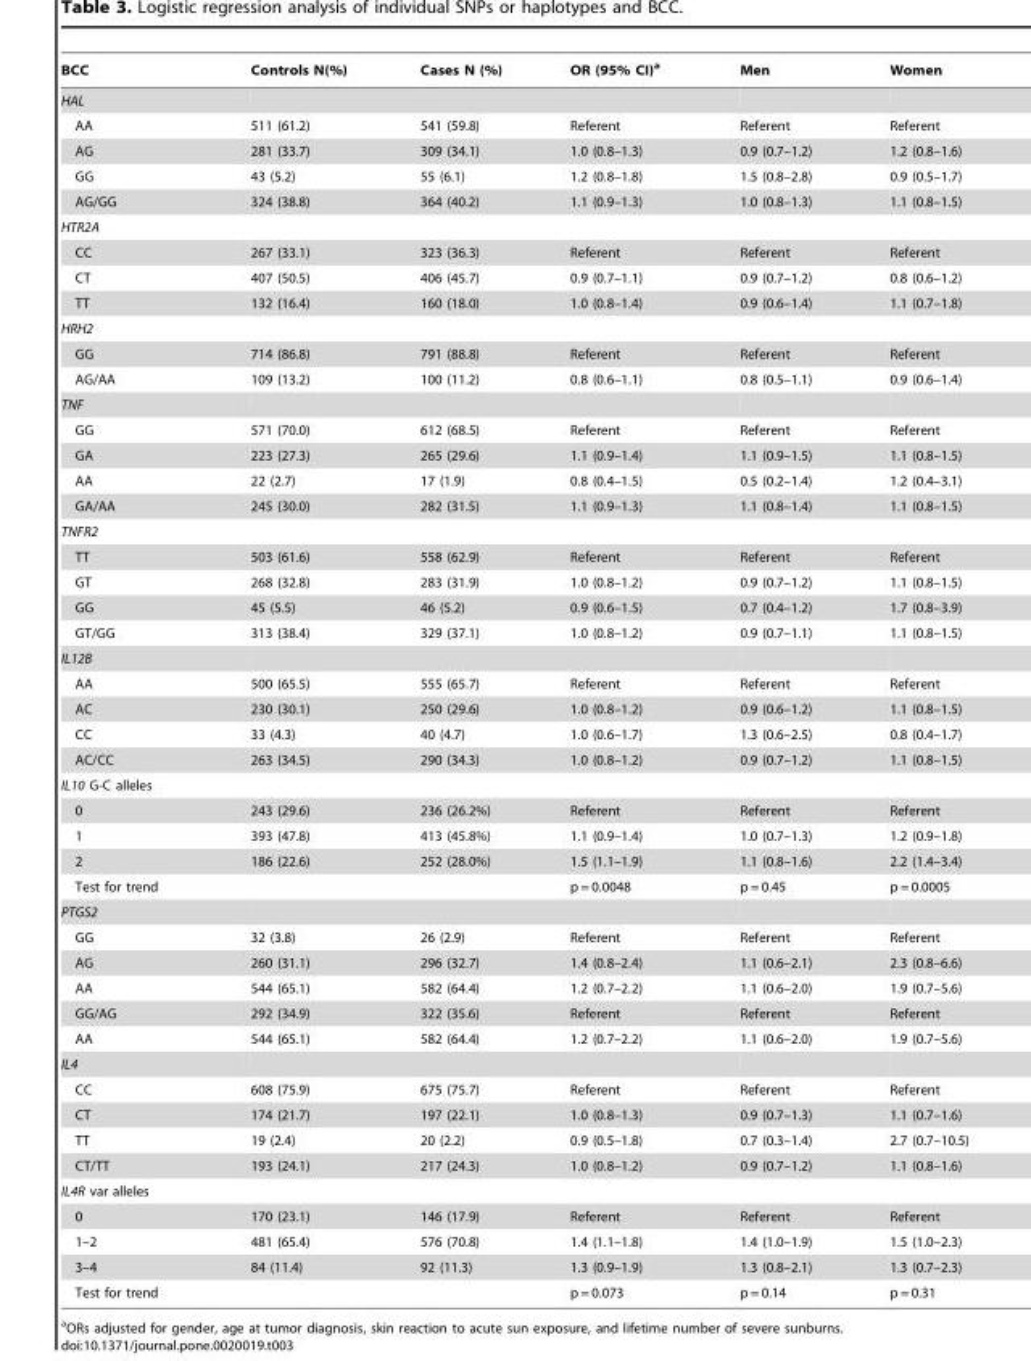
<table><thead><tr><td>BCC</td><td>Controls N(%)</td><td>Cases N (%)</td><td>OR (95% CI)<sup>a</sup></td><td>Men</td><td>Women</td></tr></thead><tbody><tr><td colspan="6">HAL</td></tr><tr><td>AA</td><td>511 (61.2)</td><td>541 (59.8)</td><td>Referent</td><td>Referent</td><td>Referent</td></tr><tr><td>AG</td><td>281 (33.7)</td><td>309 (34.1)</td><td>1.0 (0.8–1.3)</td><td>0.9 (0.7–1.2)</td><td>1.2 (0.8–1.6)</td></tr><tr><td>GG</td><td>43 (5.2)</td><td>55 (6.1)</td><td>1.2 (0.8–1.8)</td><td>1.5 (0.8–2.8)</td><td>0.9 (0.5–1.7)</td></tr><tr><td>AG/GG</td><td>324 (38.8)</td><td>364 (40.2)</td><td>1.1 (0.9–1.3)</td><td>1.0 (0.8–1.3)</td><td>1.1 (0.8–1.5)</td></tr><tr><td colspan="6">HTR2A</td></tr><tr><td>CC</td><td>267 (33.1)</td><td>323 (36.3)</td><td>Referent</td><td>Referent</td><td>Referent</td></tr><tr><td>CT</td><td>407 (50.5)</td><td>406 (45.7)</td><td>0.9 (0.7–1.1)</td><td>0.9 (0.7–1.2)</td><td>0.8 (0.6–1.2)</td></tr><tr><td>TT</td><td>132 (16.4)</td><td>160 (18.0)</td><td>1.0 (0.8–1.4)</td><td>0.9 (0.6–1.4)</td><td>1.1 (0.7–1.8)</td></tr><tr><td colspan="6">HRH2</td></tr><tr><td>GG</td><td>714 (86.8)</td><td>791 (88.8)</td><td>Referent</td><td>Referent</td><td>Referent</td></tr><tr><td>AG/AA</td><td>109 (13.2)</td><td>100 (11.2)</td><td>0.8 (0.6–1.1)</td><td>0.8 (0.5–1.1)</td><td>0.9 (0.6–1.4)</td></tr><tr><td colspan="6">TNF</td></tr><tr><td>GG</td><td>571 (70.0)</td><td>612 (68.5)</td><td>Referent</td><td>Referent</td><td>Referent</td></tr><tr><td>GA</td><td>223 (27.3)</td><td>265 (29.6)</td><td>1.1 (0.9–1.4)</td><td>1.1 (0.9–1.5)</td><td>1.1 (0.8–1.5)</td></tr><tr><td>AA</td><td>22 (2.7)</td><td>17 (1.9)</td><td>0.8 (0.4–1.5)</td><td>0.5 (0.2–1.4)</td><td>1.2 (0.4–3.1)</td></tr><tr><td>GA/AA</td><td>245 (30.0)</td><td>282 (31.5)</td><td>1.1 (0.9–1.3)</td><td>1.1 (0.8–1.4)</td><td>1.1 (0.8–1.5)</td></tr><tr><td colspan="6">TNFR2</td></tr><tr><td>TT</td><td>503 (61.6)</td><td>558 (62.9)</td><td>Referent</td><td>Referent</td><td>Referent</td></tr><tr><td>GT</td><td>268 (32.8)</td><td>283 (31.9)</td><td>1.0 (0.8–1.2)</td><td>0.9 (0.7–1.2)</td><td>1.1 (0.8–1.5)</td></tr><tr><td>GG</td><td>45 (5.5)</td><td>46 (5.2)</td><td>0.9 (0.6–1.5)</td><td>0.7 (0.4–1.2)</td><td>1.7 (0.8–3.9)</td></tr><tr><td>GT/GG</td><td>313 (38.4)</td><td>329 (37.1)</td><td>1.0 (0.8–1.2)</td><td>0.9 (0.7–1.1)</td><td>1.1 (0.8–1.5)</td></tr><tr><td colspan="6">IL12B</td></tr><tr><td>AA</td><td>500 (65.5)</td><td>555 (65.7)</td><td>Referent</td><td>Referent</td><td>Referent</td></tr><tr><td>AC</td><td>230 (30.1)</td><td>250 (29.6)</td><td>1.0 (0.8–1.2)</td><td>0.9 (0.6–1.2)</td><td>1.1 (0.8–1.5)</td></tr><tr><td>CC</td><td>33 (4.3)</td><td>40 (4.7)</td><td>1.0 (0.6–1.7)</td><td>1.3 (0.6–2.5)</td><td>0.8 (0.4–1.7)</td></tr><tr><td>AC/CC</td><td>263 (34.5)</td><td>290 (34.3)</td><td>1.0 (0.8–1.2)</td><td>0.9 (0.7–1.2)</td><td>1.1 (0.8–1.5)</td></tr><tr><td colspan="6">IL10 G-C alleles</td></tr><tr><td>0</td><td>243 (29.6)</td><td>236 (26.2%)</td><td>Referent</td><td>Referent</td><td>Referent</td></tr><tr><td>1</td><td>393 (47.8)</td><td>413 (45.8%)</td><td>1.1 (0.9–1.4)</td><td>1.0 (0.7–1.3)</td><td>1.2 (0.9–1.8)</td></tr><tr><td>2</td><td>186 (22.6)</td><td>252 (28.0%)</td><td>1.5 (1.1–1.9)</td><td>1.1 (0.8–1.6)</td><td>2.2 (1.4–3.4)</td></tr><tr><td>Test for trend</td><td></td><td></td><td>p = 0.0048</td><td>p = 0.45</td><td>p = 0.0005</td></tr><tr><td colspan="6">PTGS2</td></tr><tr><td>GG</td><td>32 (3.8)</td><td>26 (2.9)</td><td>Referent</td><td>Referent</td><td>Referent</td></tr><tr><td>AG</td><td>260 (31.1)</td><td>296 (32.7)</td><td>1.4 (0.8–2.4)</td><td>1.1 (0.6–2.1)</td><td>2.3 (0.8–6.6)</td></tr><tr><td>AA</td><td>544 (65.1)</td><td>582 (64.4)</td><td>1.2 (0.7–2.2)</td><td>1.1 (0.6–2.0)</td><td>1.9 (0.7–5.6)</td></tr><tr><td>GG/AG</td><td>292 (34.9)</td><td>322 (35.6)</td><td>Referent</td><td>Referent</td><td>Referent</td></tr><tr><td>AA</td><td>544 (65.1)</td><td>582 (64.4)</td><td>1.2 (0.7–2.2)</td><td>1.1 (0.6–2.0)</td><td>1.9 (0.7–5.6)</td></tr><tr><td colspan="6">IL4</td></tr><tr><td>CC</td><td>608 (75.9)</td><td>675 (75.7)</td><td>Referent</td><td>Referent</td><td>Referent</td></tr><tr><td>CT</td><td>174 (21.7)</td><td>197 (22.1)</td><td>1.0 (0.8–1.3)</td><td>0.9 (0.7–1.3)</td><td>1.1 (0.7–1.6)</td></tr><tr><td>TT</td><td>19 (2.4)</td><td>20 (2.2)</td><td>0.9 (0.5–1.8)</td><td>0.7 (0.3–1.4)</td><td>2.7 (0.7–10.5)</td></tr><tr><td>CT/TT</td><td>193 (24.1)</td><td>217 (24.3)</td><td>1.0 (0.8–1.2)</td><td>0.9 (0.7–1.2)</td><td>1.1 (0.8–1.6)</td></tr><tr><td colspan="6">IL4R var alleles</td></tr><tr><td>0</td><td>170 (23.1)</td><td>146 (17.9)</td><td>Referent</td><td>Referent</td><td>Referent</td></tr><tr><td>1–2</td><td>481 (65.4)</td><td>576 (70.8)</td><td>1.4 (1.1–1.8)</td><td>1.4 (1.0–1.9)</td><td>1.5 (1.0–2.3)</td></tr><tr><td>3–4</td><td>84 (11.4)</td><td>92 (11.3)</td><td>1.3 (0.9–1.9)</td><td>1.3 (0.8–2.1)</td><td>1.3 (0.7–2.3)</td></tr><tr><td>Test for trend</td><td></td><td></td><td>p = 0.073</td><td>p = 0.14</td><td>p = 0.31</td></tr></tbody></table>